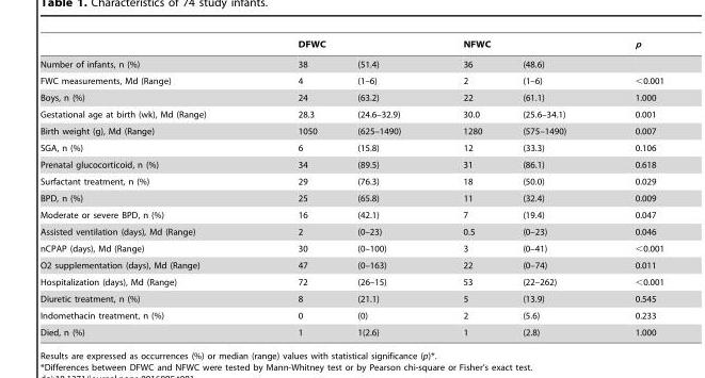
<table><thead><tr><td rowspan="2">Number of infants, n (%)</td><td colspan="2">DFWC</td><td colspan="2">NFWC</td><td rowspan="2">p</td></tr><tr><td>38</td><td>(51.4)</td><td>36</td><td>(48.6)</td></tr></thead><tbody><tr><td>FWC measurements, Md (Range)</td><td>4</td><td>(1–6)</td><td>2</td><td>(1–6)</td><td>&lt;0.001</td></tr><tr><td>Boys, n (%)</td><td>24</td><td>(63.2)</td><td>22</td><td>(61.1)</td><td>1.000</td></tr><tr><td>Gestational age at birth (wk), Md (Range)</td><td>28.3</td><td>(24.6–32.9)</td><td>30.0</td><td>(25.6–34.1)</td><td>0.001</td></tr><tr><td>Birth weight (g), Md (Range)</td><td>1050</td><td>(625–1490)</td><td>1280</td><td>(575–1490)</td><td>0.007</td></tr><tr><td>SGA, n (%)</td><td>6</td><td>(15.8)</td><td>12</td><td>(33.3)</td><td>0.106</td></tr><tr><td>Prenatal glucocorticoid, n (%)</td><td>34</td><td>(89.5)</td><td>31</td><td>(86.1)</td><td>0.618</td></tr><tr><td>Surfactant treatment, n (%)</td><td>29</td><td>(76.3)</td><td>18</td><td>(50.0)</td><td>0.029</td></tr><tr><td>BPD, n (%)</td><td>25</td><td>(65.8)</td><td>11</td><td>(32.4)</td><td>0.009</td></tr><tr><td>Moderate or severe BPD, n (%)</td><td>16</td><td>(42.1)</td><td>7</td><td>(19.4)</td><td>0.047</td></tr><tr><td>Assisted ventilation (days), Md (Range)</td><td>2</td><td>(0–23)</td><td>0.5</td><td>(0–23)</td><td>0.046</td></tr><tr><td>nCPAP (days), Md (Range)</td><td>30</td><td>(0–100)</td><td>3</td><td>(0–41)</td><td>&lt;0.001</td></tr><tr><td>O2 supplementation (days), Md (Range)</td><td>47</td><td>(0–163)</td><td>22</td><td>(0–74)</td><td>0.011</td></tr><tr><td>Hospitalization (days), Md (Range)</td><td>72</td><td>(26–15)</td><td>53</td><td>(22–262)</td><td>&lt;0.001</td></tr><tr><td>Diuretic treatment, n (%)</td><td>8</td><td>(21.1)</td><td>5</td><td>(13.9)</td><td>0.545</td></tr><tr><td>Indomethacin treatment, n (%)</td><td>0</td><td>(0)</td><td>2</td><td>(5.6)</td><td>0.233</td></tr><tr><td>Died, n (%)</td><td>1</td><td>1(2.6)</td><td>1</td><td>(2.8)</td><td>1.000</td></tr></tbody></table>